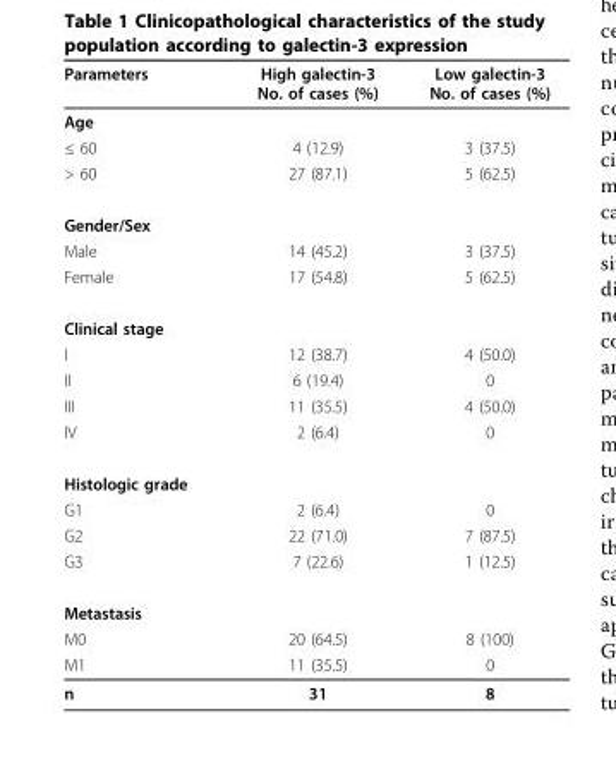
<table><thead><tr><td>Parameters</td><td>High galectin-3 No. of cases (%)</td><td>Low galectin-3 No. of cases (%)</td></tr></thead><tbody><tr><td colspan="3">Age</td></tr><tr><td>≤ 60</td><td>4 (12.9)</td><td>3 (37.5)</td></tr><tr><td>&gt; 60</td><td>27 (87.1)</td><td>5 (62.5)</td></tr><tr><td colspan="3">Gender/Sex</td></tr><tr><td>Male</td><td>14 (45.2)</td><td>3 (37.5)</td></tr><tr><td>Female</td><td>17 (54.8)</td><td>5 (62.5)</td></tr><tr><td colspan="3">Clinical stage</td></tr><tr><td>I</td><td>12 (38.7)</td><td>4 (50.0)</td></tr><tr><td>II</td><td>6 (19.4)</td><td>0</td></tr><tr><td>III</td><td>11 (35.5)</td><td>4 (50.0)</td></tr><tr><td>IV</td><td>2 (6.4)</td><td>0</td></tr><tr><td colspan="3">Histologic grade</td></tr><tr><td>G1</td><td>2 (6.4)</td><td>0</td></tr><tr><td>G2</td><td>22 (71.0)</td><td>7 (87.5)</td></tr><tr><td>G3</td><td>7 (22.6)</td><td>1 (12.5)</td></tr><tr><td colspan="3">Metastasis</td></tr><tr><td>M0</td><td>20 (64.5)</td><td>8 (100)</td></tr><tr><td>M1</td><td>11 (35.5)</td><td>0</td></tr><tr><td>n</td><td>31</td><td>8</td></tr></tbody></table>